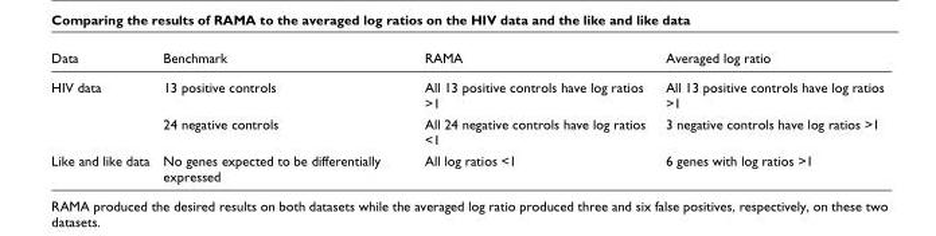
<table><thead><tr><td>Data</td><td>Benchmark</td><td>RAMA</td><td>Averaged log ratio</td></tr></thead><tbody><tr><td rowspan="2">HIV data</td><td>13 positive controls</td><td>All 13 positive controls have log ratios &gt;1</td><td>All 13 positive controls have log ratios &gt;1</td></tr><tr><td>24 negative controls</td><td>All 24 negative controls have log ratios &lt;1</td><td>3 negative controls have log ratios &gt;1</td></tr><tr><td>Like and like data</td><td>No genes expected to be differentially expressed</td><td>All log ratios &lt;1</td><td>6 genes with log ratios &gt;1</td></tr></tbody></table>